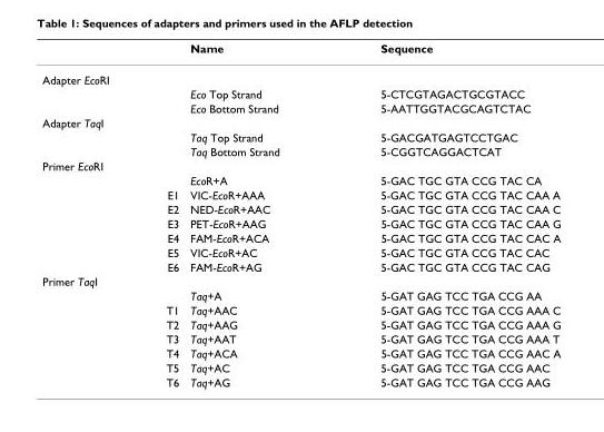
<table><thead><tr><td></td><td>Name</td><td>Sequence</td></tr></thead><tbody><tr><td colspan="3">Adapter EcoRI</td></tr><tr><td></td><td>Eco Top Strand</td><td>5-CTCGTAGACTGCGTACC</td></tr><tr><td></td><td>Eco Bottom Strand</td><td>5-AATTGGTACGCAGTCTAC</td></tr><tr><td colspan="3">Adapter TaqI</td></tr><tr><td></td><td>Taq Top Strand</td><td>5-GACGATGAGTCCTGAC</td></tr><tr><td></td><td>Taq Bottom Strand</td><td>5-CGGTCAGGACTCAT</td></tr><tr><td colspan="3">Primer EcoRI</td></tr><tr><td></td><td>EcoR+A</td><td>5-GAC TGC GTA CCG TAC CA</td></tr><tr><td>E1</td><td>VIC-EcoR+AAA</td><td>5-GAC TGC GTA CCG TAC CAA A</td></tr><tr><td>E2</td><td>NED-EcoR+AAC</td><td>5-GAC TGC GTA CCG TAC CAA C</td></tr><tr><td>E3</td><td>PET-EcoR+AAG</td><td>5-GAC TGC GTA CCG TAC CAA G</td></tr><tr><td>E4</td><td>FAM-EcoR+ACA</td><td>5-GAC TGC GTA CCG TAC CAC A</td></tr><tr><td>E5</td><td>VIC-EcoR+AC</td><td>5-GAC TGC GTA CCG TAC CAC</td></tr><tr><td>E6</td><td>FAM-EcoR+AG</td><td>5-GAC TGC GTA CCG TAC CAG</td></tr><tr><td colspan="3">Primer TaqI</td></tr><tr><td></td><td>Taq+A</td><td>5-GAT GAG TCC TGA CCG AA</td></tr><tr><td>T1</td><td>Taq+AAC</td><td>5-GAT GAG TCC TGA CCG AAA C</td></tr><tr><td>T2</td><td>Taq+AAG</td><td>5-GAT GAG TCC TGA CCG AAA G</td></tr><tr><td>T3</td><td>Taq+AAT</td><td>5-GAT GAG TCC TGA CCG AAA T</td></tr><tr><td>T4</td><td>Taq+ACA</td><td>5-GAT GAG TCC TGA CCG AAC A</td></tr><tr><td>T5</td><td>Taq+AC</td><td>5-GAT GAG TCC TGA CCG AAC</td></tr><tr><td>T6</td><td>Taq+AG</td><td>5-GAT GAG TCC TGA CCG AAG</td></tr></tbody></table>